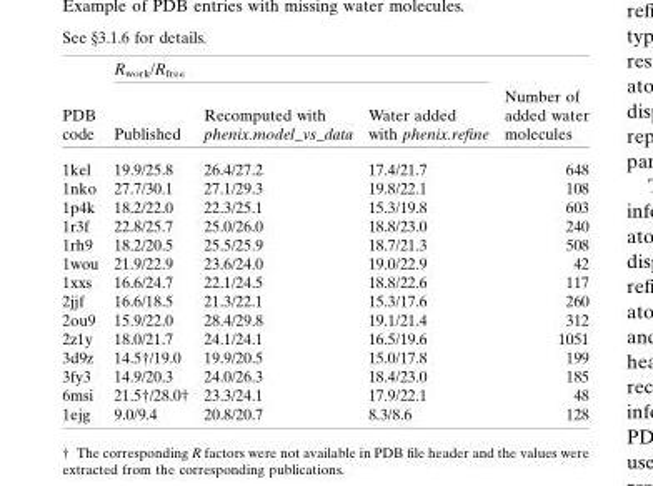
<table><thead><tr><td rowspan="2">PDB code</td><td colspan="3">R<sub>work</sub>/R<sub>free</sub></td><td rowspan="2">Number of added water molecules</td></tr><tr><td>Published</td><td>Recomputed with phenix.model_vs_data</td><td>Water added with phenix.refine</td></tr></thead><tbody><tr><td>1kel</td><td>19.9/25.8</td><td>26.4/27.2</td><td>17.4/21.7</td><td>648</td></tr><tr><td>1nko</td><td>27.7/30.1</td><td>27.1/29.3</td><td>19.8/22.1</td><td>108</td></tr><tr><td>1p4k</td><td>18.2/22.0</td><td>22.3/25.1</td><td>15.3/19.8</td><td>603</td></tr><tr><td>1r3f</td><td>22.8/25.7</td><td>25.0/26.0</td><td>18.8/23.0</td><td>240</td></tr><tr><td>1rh9</td><td>18.2/20.5</td><td>25.5/25.9</td><td>18.7/21.3</td><td>508</td></tr><tr><td>1wou</td><td>21.9/22.9</td><td>23.6/24.0</td><td>19.0/22.9</td><td>42</td></tr><tr><td>1xxs</td><td>16.6/24.7</td><td>22.1/24.5</td><td>18.8/22.6</td><td>117</td></tr><tr><td>2jjf</td><td>16.6/18.5</td><td>21.3/22.1</td><td>15.3/17.6</td><td>260</td></tr><tr><td>2ou9</td><td>15.9/22.0</td><td>28.4/29.8</td><td>19.1/21.4</td><td>312</td></tr><tr><td>2z1y</td><td>18.0/21.7</td><td>24.1/24.1</td><td>16.5/19.6</td><td>1051</td></tr><tr><td>3d9z</td><td>14.5†/19.0</td><td>19.9/20.5</td><td>15.0/17.8</td><td>199</td></tr><tr><td>3fy3</td><td>14.9/20.3</td><td>24.0/26.3</td><td>18.4/23.0</td><td>185</td></tr><tr><td>6msi</td><td>21.5†/28.0†</td><td>23.3/24.1</td><td>17.9/22.1</td><td>48</td></tr><tr><td>1ejg</td><td>9.0/9.4</td><td>20.8/20.7</td><td>8.3/8.6</td><td>128</td></tr></tbody></table>